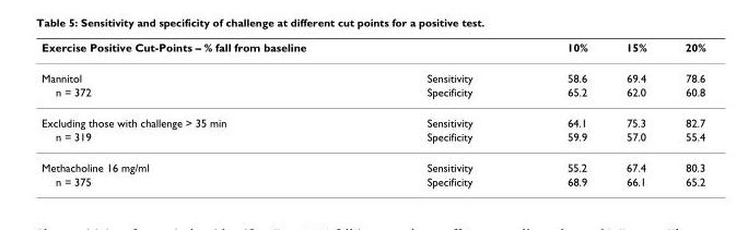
<table><thead><tr><td colspan="2">Exercise Positive Cut-Points – % fall from baseline</td><td rowspan="2">10% 58.6</td><td rowspan="2">15% 69.4</td><td rowspan="2">20% 78.6</td></tr><tr><td>Mannitol</td><td>Sensitivity</td></tr></thead><tbody><tr><td>n = 372</td><td>Specificity</td><td>65.2</td><td>62.0</td><td>60.8</td></tr><tr><td>Excluding those with challenge &gt; 35 min</td><td>Sensitivity</td><td>64.1</td><td>75.3</td><td>82.7</td></tr><tr><td>n = 319</td><td>Specificity</td><td>59.9</td><td>57.0</td><td>55.4</td></tr><tr><td>Methacholine 16 mg/ml</td><td>Sensitivity</td><td>55.2</td><td>67.4</td><td>80.3</td></tr><tr><td>n = 375</td><td>Specificity</td><td>68.9</td><td>66.1</td><td>65.2</td></tr></tbody></table>